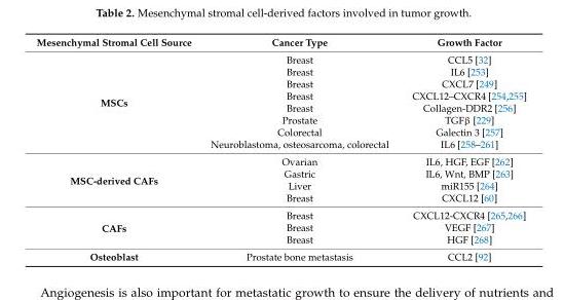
<table><thead><tr><td>Mesenchymal Stromal Cell Source</td><td>Cancer Type</td><td>Growth Factor</td></tr></thead><tbody><tr><td rowspan="8">MSCs</td><td>Breast</td><td>CCL5 [32]</td></tr><tr><td>Breast</td><td>IL6 [253]</td></tr><tr><td>Breast</td><td>CXCL7 [249]</td></tr><tr><td>Breast</td><td>CXCL12–CXCR4 [254,255]</td></tr><tr><td>Breast</td><td>Collagen-DDR2 [256]</td></tr><tr><td>Prostate</td><td>TGFβ [229]</td></tr><tr><td>Colorectal</td><td>Galectin 3 [257]</td></tr><tr><td>Neuroblastoma, osteosarcoma, colorectal</td><td>IL6 [258–261]</td></tr><tr><td rowspan="4">MSC-derived CAFs</td><td>Ovarian</td><td>IL6, HGF, EGF [262]</td></tr><tr><td>Gastric</td><td>IL6, Wnt, BMP [263]</td></tr><tr><td>Liver</td><td>miR155 [264]</td></tr><tr><td>Breast</td><td>CXCL12 [60]</td></tr><tr><td rowspan="3">CAFs</td><td>Breast</td><td>CXCL12-CXCR4 [265,266]</td></tr><tr><td>Breast</td><td>VEGF [267]</td></tr><tr><td>Breast</td><td>HGF [268]</td></tr><tr><td>Osteoblast</td><td>Prostate bone metastasis</td><td>CCL2 [92]</td></tr></tbody></table>